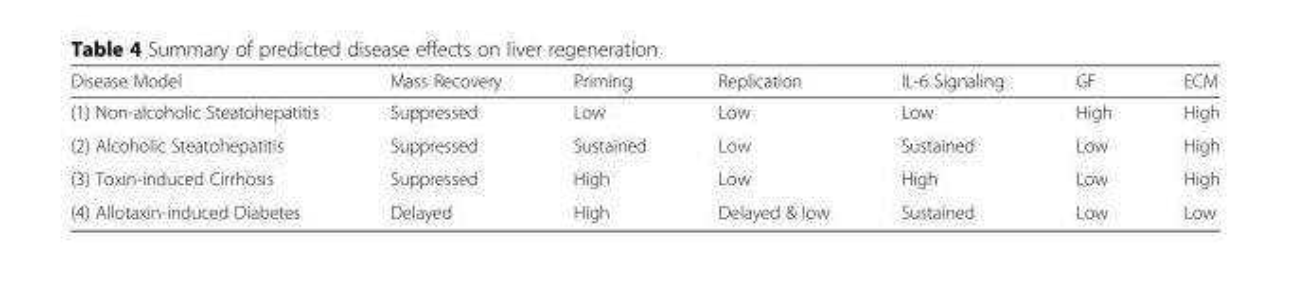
<table><thead><tr><td>Disease Model</td><td>Mass Recovery</td><td>Priming</td><td>Replication</td><td>IL-6 Signaling</td><td>GF</td><td>ECM</td></tr></thead><tbody><tr><td>(1) Non-alcoholic Steatohepatitis</td><td>Suppressed</td><td>Low</td><td>Low</td><td>Low</td><td>High</td><td>High</td></tr><tr><td>(2) Alcoholic Steatohepatitis</td><td>Suppressed</td><td>Sustained</td><td>Low</td><td>Sustained</td><td>Low</td><td>High</td></tr><tr><td>(3) Toxin-induced Cirrhosis</td><td>Suppressed</td><td>High</td><td>Low</td><td>High</td><td>Low</td><td>High</td></tr><tr><td>(4) Allotaxin-induced Diabetes</td><td>Delayed</td><td>High</td><td>Delayed &amp; low</td><td>Sustained</td><td>Low</td><td>Low</td></tr></tbody></table>